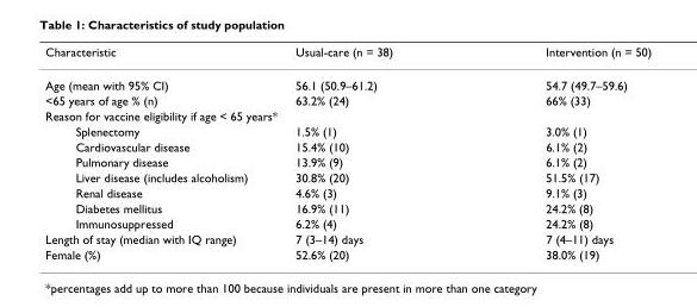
<table><thead><tr><td>Characteristic</td><td>Usual-care (n = 38)</td><td>Intervention (n = 50)</td></tr></thead><tbody><tr><td>Age (mean with 95% CI)</td><td>56.1 (50.9–61.2)</td><td>54.7 (49.7–59.6)</td></tr><tr><td>&lt;65 years of age % (n)</td><td>63.2% (24)</td><td>66% (33)</td></tr><tr><td colspan="3">Reason for vaccine eligibility if age &lt; 65 years*</td></tr><tr><td>Splenectomy</td><td>1.5% (1)</td><td>3.0% (1)</td></tr><tr><td>Cardiovascular disease</td><td>15.4% (10)</td><td>6.1% (2)</td></tr><tr><td>Pulmonary disease</td><td>13.9% (9)</td><td>6.1% (2)</td></tr><tr><td>Liver disease (includes alcoholism)</td><td>30.8% (20)</td><td>51.5% (17)</td></tr><tr><td>Renal disease</td><td>4.6% (3)</td><td>9.1% (3)</td></tr><tr><td>Diabetes mellitus</td><td>16.9% (11)</td><td>24.2% (8)</td></tr><tr><td>Immunosuppressed</td><td>6.2% (4)</td><td>24.2% (8)</td></tr><tr><td>Length of stay (median with IQ range)</td><td>7 (3–14) days</td><td>7 (4–11) days</td></tr><tr><td>Female (%)</td><td>52.6% (20)</td><td>38.0% (19)</td></tr></tbody></table>